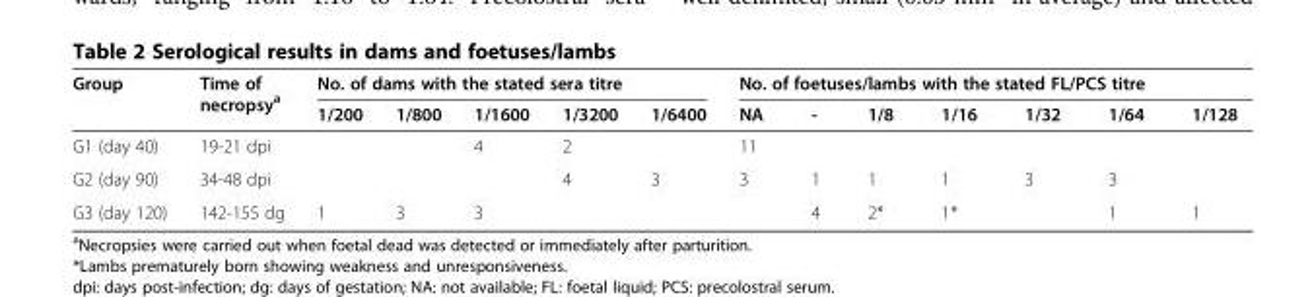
<table><thead><tr><td rowspan="2">Group</td><td rowspan="2">Time of necropsy<sup>a</sup></td><td colspan="5">No. of dams with the stated sera titre</td><td colspan="7">No. of foetuses/lambs with the stated FL/PCS titre</td></tr><tr><td>1/200</td><td>1/800</td><td>1/1600</td><td>1/3200</td><td>1/6400</td><td>NA</td><td>-</td><td>1/8</td><td>1/16</td><td>1/32</td><td>1/64</td><td>1/128</td></tr></thead><tbody><tr><td>G1 (day 40)</td><td>19-21 dpi</td><td></td><td></td><td>4</td><td>2</td><td></td><td>11</td><td></td><td></td><td></td><td></td><td></td><td></td></tr><tr><td>G2 (day 90)</td><td>34-48 dpi</td><td></td><td></td><td></td><td>4</td><td>3</td><td>3</td><td>1</td><td>1</td><td>1</td><td>3</td><td>3</td><td></td></tr><tr><td>G3 (day 120)</td><td>142-155 dg</td><td>1</td><td>3</td><td>3</td><td></td><td></td><td></td><td>4</td><td>2*</td><td>1*</td><td></td><td>1</td><td>1</td></tr></tbody></table>